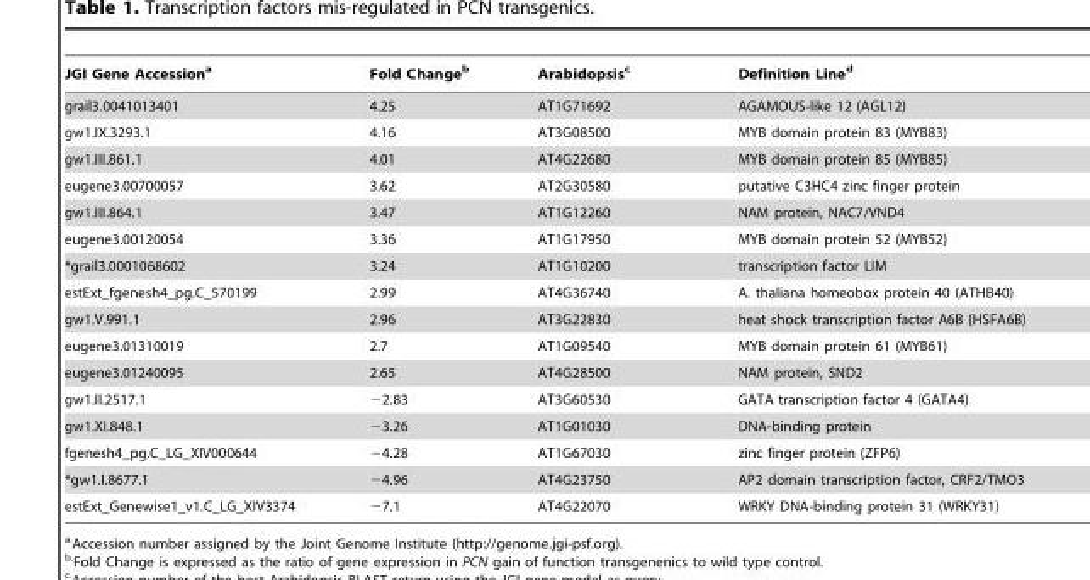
<table><thead><tr><td>JGI Gene Accession<sup>a</sup></td><td>Fold Change<sup>b</sup></td><td>Arabidopsis<sup>c</sup></td><td>Definition Line<sup>d</sup></td></tr></thead><tbody><tr><td>grail3.0041013401</td><td>4.25</td><td>AT1G71692</td><td>AGAMOUS-like 12 (AGL12)</td></tr><tr><td>gw1.IX.3293.1</td><td>4.16</td><td>AT3G08500</td><td>MYB domain protein 83 (MYB83)</td></tr><tr><td>gw1.III.861.1</td><td>4.01</td><td>AT4G22680</td><td>MYB domain protein 85 (MYB85)</td></tr><tr><td>eugene3.00700057</td><td>3.62</td><td>AT2G30580</td><td>putative C3HC4 zinc finger protein</td></tr><tr><td>gw1.III.864.1</td><td>3.47</td><td>AT1G12260</td><td>NAM protein, NAC7/VND4</td></tr><tr><td>eugene3.00120054</td><td>3.36</td><td>AT1G17950</td><td>MYB domain protein 52 (MYB52)</td></tr><tr><td>*grail3.0001068602</td><td>3.24</td><td>AT1G10200</td><td>transcription factor LIM</td></tr><tr><td>estExt_fgenesh4_pg.C_570199</td><td>2.99</td><td>AT4G36740</td><td>A. thaliana homeobox protein 40 (ATHB40)</td></tr><tr><td>gw1.V.991.1</td><td>2.96</td><td>AT3G22830</td><td>heat shock transcription factor A6B (HSFA6B)</td></tr><tr><td>eugene3.01310019</td><td>2.7</td><td>AT1G09540</td><td>MYB domain protein 61 (MYB61)</td></tr><tr><td>eugene3.01240095</td><td>2.65</td><td>AT4G28500</td><td>NAM protein, SND2</td></tr><tr><td>gw1.II.2517.1</td><td>−2.83</td><td>AT3G60530</td><td>GATA transcription factor 4 (GATA4)</td></tr><tr><td>gw1.XI.848.1</td><td>−3.26</td><td>AT1G01030</td><td>DNA-binding protein</td></tr><tr><td>fgenesh4_pg.C_LG_XIV000644</td><td>−4.28</td><td>AT1G67030</td><td>zinc finger protein (ZFP6)</td></tr><tr><td>*gw1.I.8677.1</td><td>−4.96</td><td>AT4G23750</td><td>AP2 domain transcription factor, CRF2/TMO3</td></tr><tr><td>estExt_Genewise1_v1.C_LG_XIV3374</td><td>−7.1</td><td>AT4G22070</td><td>WRKY DNA-binding protein 31 (WRKY31)</td></tr></tbody></table>